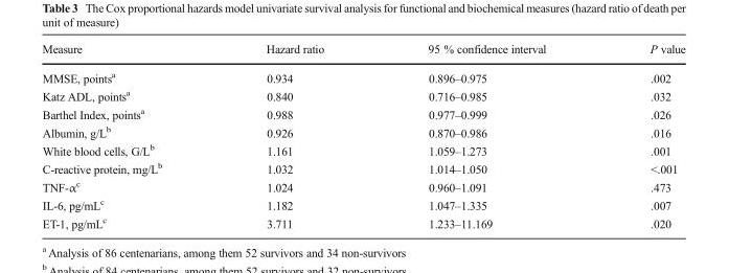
<table><thead><tr><td>Measure</td><td>Hazard ratio</td><td>95 % confidence interval</td><td>P value</td></tr></thead><tbody><tr><td>MMSE, points<sup>a</sup></td><td>0.934</td><td>0.896–0.975</td><td>.002</td></tr><tr><td>Katz ADL, points<sup>a</sup></td><td>0.840</td><td>0.716–0.985</td><td>.032</td></tr><tr><td>Barthel Index, points<sup>a</sup></td><td>0.988</td><td>0.977–0.999</td><td>.026</td></tr><tr><td>Albumin, g/L<sup>b</sup></td><td>0.926</td><td>0.870–0.986</td><td>.016</td></tr><tr><td>White blood cells, G/L<sup>b</sup></td><td>1.161</td><td>1.059–1.273</td><td>.001</td></tr><tr><td>C-reactive protein, mg/L<sup>b</sup></td><td>1.032</td><td>1.014–1.050</td><td>&lt;.001</td></tr><tr><td>TNF-α<sup>c</sup></td><td>1.024</td><td>0.960–1.091</td><td>.473</td></tr><tr><td>IL-6, pg/mL<sup>c</sup></td><td>1.182</td><td>1.047–1.335</td><td>.007</td></tr><tr><td>ET-1, pg/mL<sup>c</sup></td><td>3.711</td><td>1.233–11.169</td><td>.020</td></tr></tbody></table>